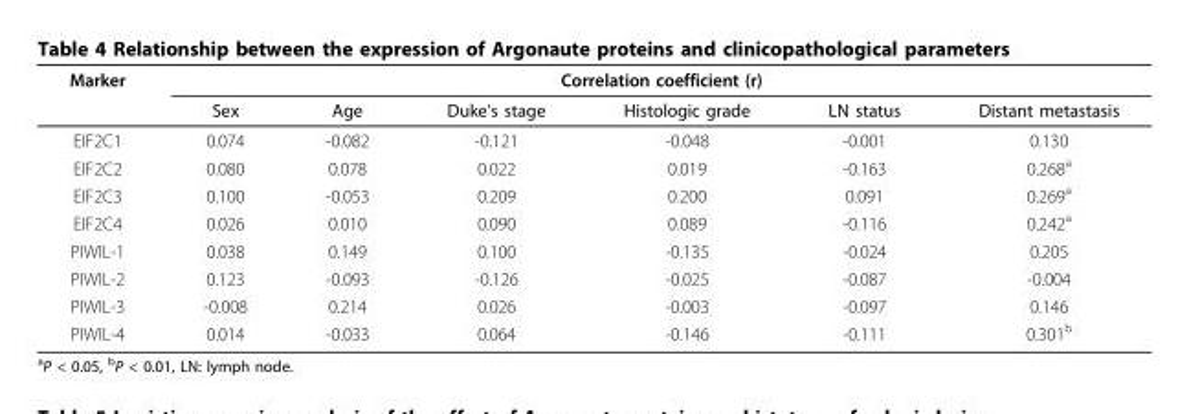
<table><thead><tr><td rowspan="2">Marker</td><td colspan="6">Correlation coefficient (r)</td></tr><tr><td>Sex</td><td>Age</td><td>Duke’s stage</td><td>Histologic grade</td><td>LN status</td><td>Distant metastasis</td></tr></thead><tbody><tr><td>EIF2C1</td><td>0.074</td><td>-0.082</td><td>-0.121</td><td>-0.048</td><td>-0.001</td><td>0.130</td></tr><tr><td>EIF2C2</td><td>0.080</td><td>0.078</td><td>0.022</td><td>0.019</td><td>-0.163</td><td>0.268<sup>a</sup></td></tr><tr><td>EIF2C3</td><td>0.100</td><td>-0.053</td><td>0.209</td><td>0.200</td><td>0.091</td><td>0.269<sup>a</sup></td></tr><tr><td>EIF2C4</td><td>0.026</td><td>0.010</td><td>0.090</td><td>0.089</td><td>-0.116</td><td>0.242<sup>a</sup></td></tr><tr><td>PIWIL-1</td><td>0.038</td><td>0.149</td><td>0.100</td><td>-0.135</td><td>-0.024</td><td>0.205</td></tr><tr><td>PIWIL-2</td><td>0.123</td><td>-0.093</td><td>-0.126</td><td>-0.025</td><td>-0.087</td><td>-0.004</td></tr><tr><td>PIWIL-3</td><td>-0.008</td><td>0.214</td><td>0.026</td><td>-0.003</td><td>-0.097</td><td>0.146</td></tr><tr><td>PIWIL-4</td><td>0.014</td><td>-0.033</td><td>0.064</td><td>-0.146</td><td>-0.111</td><td>0.301<sup>b</sup></td></tr></tbody></table>